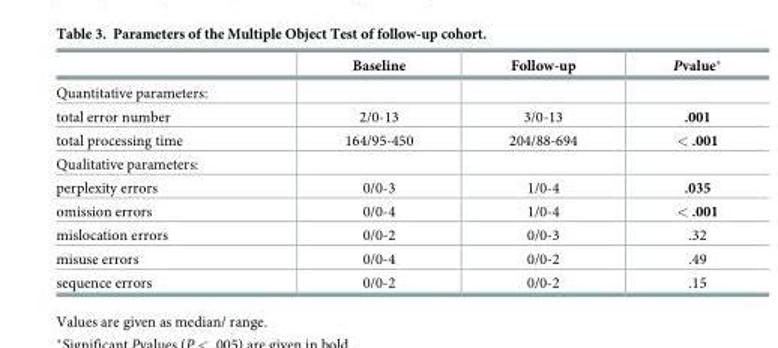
<table><thead><tr><td></td><td>Baseline</td><td>Follow-up</td><td>Pvalue*</td></tr></thead><tbody><tr><td colspan="4">Quantitative parameters:</td></tr><tr><td>total error number</td><td>2/0-13</td><td>3/0-13</td><td>.001</td></tr><tr><td>total processing time</td><td>164/95-450</td><td>204/88-694</td><td>&lt; .001</td></tr><tr><td colspan="4">Qualitative parameters:</td></tr><tr><td>perplexity errors</td><td>0/0-3</td><td>1/0-4</td><td>.035</td></tr><tr><td>omission errors</td><td>0/0-4</td><td>1/0-4</td><td>&lt; .001</td></tr><tr><td>mislocation errors</td><td>0/0-2</td><td>0/0-3</td><td>.32</td></tr><tr><td>misuse errors</td><td>0/0-4</td><td>0/0-2</td><td>.49</td></tr><tr><td>sequence errors</td><td>0/0-2</td><td>0/0-2</td><td>.15</td></tr></tbody></table>